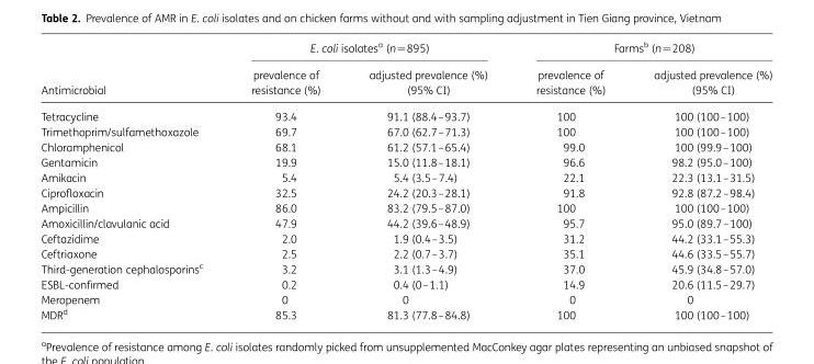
<table><thead><tr><td rowspan="2">Antimicrobial</td><td colspan="2">E. coli isolates<sup>a</sup> (n=895)</td><td colspan="2">Farms<sup>b</sup> (n=208)</td></tr><tr><td>prevalence of resistance (%)</td><td>adjusted prevalence (%) (95% CI)</td><td>prevalence of resistance (%)</td><td>adjusted prevalence (%) (95% CI)</td></tr></thead><tbody><tr><td>Tetracycline</td><td>93.4</td><td>91.1 (88.4–93.7)</td><td>100</td><td>100 (100–100)</td></tr><tr><td>Trimethoprim/sulfamethoxazole</td><td>69.7</td><td>67.0 (62.7–71.3)</td><td>100</td><td>100 (100–100)</td></tr><tr><td>Chloramphenicol</td><td>68.1</td><td>61.2 (57.1–65.4)</td><td>99.0</td><td>100 (99.9–100)</td></tr><tr><td>Gentamicin</td><td>19.9</td><td>15.0 (11.8–18.1)</td><td>96.6</td><td>98.2 (95.0–100)</td></tr><tr><td>Amikacin</td><td>5.4</td><td>5.4 (3.5–7.4)</td><td>22.1</td><td>22.3 (13.1–31.5)</td></tr><tr><td>Ciprofloxacin</td><td>32.5</td><td>24.2 (20.3–28.1)</td><td>91.8</td><td>92.8 (87.2–98.4)</td></tr><tr><td>Ampicillin</td><td>86.0</td><td>83.2 (79.5–87.0)</td><td>100</td><td>100 (100–100)</td></tr><tr><td>Amoxicillin/clavulanic acid</td><td>47.9</td><td>44.2 (39.6–48.9)</td><td>95.7</td><td>95.0 (89.7–100)</td></tr><tr><td>Ceftazidime</td><td>2.0</td><td>1.9 (0.4–3.5)</td><td>31.2</td><td>44.2 (33.1–55.3)</td></tr><tr><td>Ceftriaxone</td><td>2.5</td><td>2.2 (0.7–3.7)</td><td>35.1</td><td>44.6 (33.5–55.7)</td></tr><tr><td>Third-generation cephalosporins<sup>c</sup></td><td>3.2</td><td>3.1 (1.3–4.9)</td><td>37.0</td><td>45.9 (34.8–57.0)</td></tr><tr><td>ESBL-confirmed</td><td>0.2</td><td>0.4 (0–1.1)</td><td>14.9</td><td>20.6 (11.5–29.7)</td></tr><tr><td>Meropenem</td><td>0</td><td>0</td><td>0</td><td>0</td></tr><tr><td>MDR<sup>d</sup></td><td>85.3</td><td>81.3 (77.8–84.8)</td><td>100</td><td>100 (100–100)</td></tr></tbody></table>